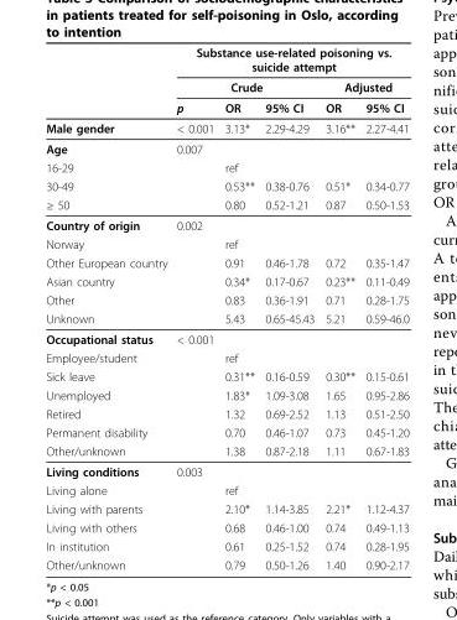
<table><thead><tr><td rowspan="3"></td><td colspan="5">Substance use-related poisoning vs. suicide attempt</td></tr><tr><td colspan="3">Crude</td><td colspan="2">Adjusted</td></tr><tr><td>p</td><td>OR</td><td>95% CI</td><td>OR</td><td>95% CI</td></tr></thead><tbody><tr><td>Male gender</td><td>&lt; 0.001</td><td>3.13*</td><td>2.29-4.29</td><td>3.16**</td><td>2.27-4.41</td></tr><tr><td>Age</td><td>0.007</td><td></td><td></td><td></td><td></td></tr><tr><td>16-29</td><td></td><td>ref</td><td></td><td></td><td></td></tr><tr><td>30-49</td><td></td><td>0.53**</td><td>0.38-0.76</td><td>0.51*</td><td>0.34-0.77</td></tr><tr><td>≥ 50</td><td></td><td>0.80</td><td>0.52-1.21</td><td>0.87</td><td>0.50-1.53</td></tr><tr><td>Country of origin</td><td>0.002</td><td></td><td></td><td></td><td></td></tr><tr><td>Norway</td><td></td><td>ref</td><td></td><td></td><td></td></tr><tr><td>Other European country</td><td></td><td>0.91</td><td>0.46-1.78</td><td>0.72</td><td>0.35-1.47</td></tr><tr><td>Asian country</td><td></td><td>0.34*</td><td>0.17-0.67</td><td>0.23**</td><td>0.11-0.49</td></tr><tr><td>Other</td><td></td><td>0.83</td><td>0.36-1.91</td><td>0.71</td><td>0.28-1.75</td></tr><tr><td>Unknown</td><td></td><td>5.43</td><td>0.65-45.43</td><td>5.21</td><td>0.59-46.0</td></tr><tr><td>Occupational status</td><td>&lt; 0.001</td><td></td><td></td><td></td><td></td></tr><tr><td>Employee/student</td><td></td><td>ref</td><td></td><td></td><td></td></tr><tr><td>Sick leave</td><td></td><td>0.31**</td><td>0.16-0.59</td><td>0.30**</td><td>0.15-0.61</td></tr><tr><td>Unemployed</td><td></td><td>1.83*</td><td>1.09-3.08</td><td>1.65</td><td>0.95-2.86</td></tr><tr><td>Retired</td><td></td><td>1.32</td><td>0.69-2.52</td><td>1.13</td><td>0.51-2.50</td></tr><tr><td>Permanent disability</td><td></td><td>0.70</td><td>0.46-1.07</td><td>0.73</td><td>0.45-1.20</td></tr><tr><td>Other/unknown</td><td></td><td>1.38</td><td>0.87-2.18</td><td>1.11</td><td>0.67-1.83</td></tr><tr><td>Living conditions</td><td>0.003</td><td></td><td></td><td></td><td></td></tr><tr><td>Living alone</td><td></td><td>ref</td><td></td><td></td><td></td></tr><tr><td>Living with parents</td><td></td><td>2.10*</td><td>1.14-3.85</td><td>2.21*</td><td>1.12-4.37</td></tr><tr><td>Living with others</td><td></td><td>0.68</td><td>0.46-1.00</td><td>0.74</td><td>0.49-1.13</td></tr><tr><td>In institution</td><td></td><td>0.61</td><td>0.25-1.52</td><td>0.74</td><td>0.28-1.95</td></tr><tr><td>Other/unknown</td><td></td><td>0.79</td><td>0.50-1.26</td><td>1.40</td><td>0.90-2.17</td></tr></tbody></table>